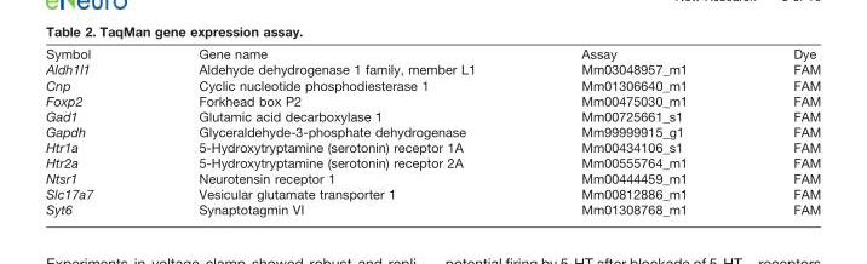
<table><thead><tr><td>Symbol</td><td>Gene name</td><td>Assay</td><td>Dye</td></tr></thead><tbody><tr><td>Aldh1l1</td><td>Aldehyde dehydrogenase 1 family, member L1</td><td>Mm03048957_m1</td><td>FAM</td></tr><tr><td>Cnp</td><td>Cyclic nucleotide phosphodiesterase 1</td><td>Mm01306640_m1</td><td>FAM</td></tr><tr><td>Foxp2</td><td>Forkhead box P2</td><td>Mm00475030_m1</td><td>FAM</td></tr><tr><td>Gad1</td><td>Glutamic acid decarboxylase 1</td><td>Mm00725661_s1</td><td>FAM</td></tr><tr><td>Gapdh</td><td>Glyceraldehyde-3-phosphate dehydrogenase</td><td>Mm99999915_g1</td><td>FAM</td></tr><tr><td>Htr1a</td><td>5-Hydroxytryptamine (serotonin) receptor 1A</td><td>Mm00434106_s1</td><td>FAM</td></tr><tr><td>Htr2a</td><td>5-Hydroxytryptamine (serotonin) receptor 2A</td><td>Mm00555764_m1</td><td>FAM</td></tr><tr><td>Ntsr1</td><td>Neurotensin receptor 1</td><td>Mm00444459_m1</td><td>FAM</td></tr><tr><td>Slc17a7</td><td>Vesicular glutamate transporter 1</td><td>Mm00812886_m1</td><td>FAM</td></tr><tr><td>Syt6</td><td>Synaptotagmin VI</td><td>Mm01308768_m1</td><td>FAM</td></tr></tbody></table>